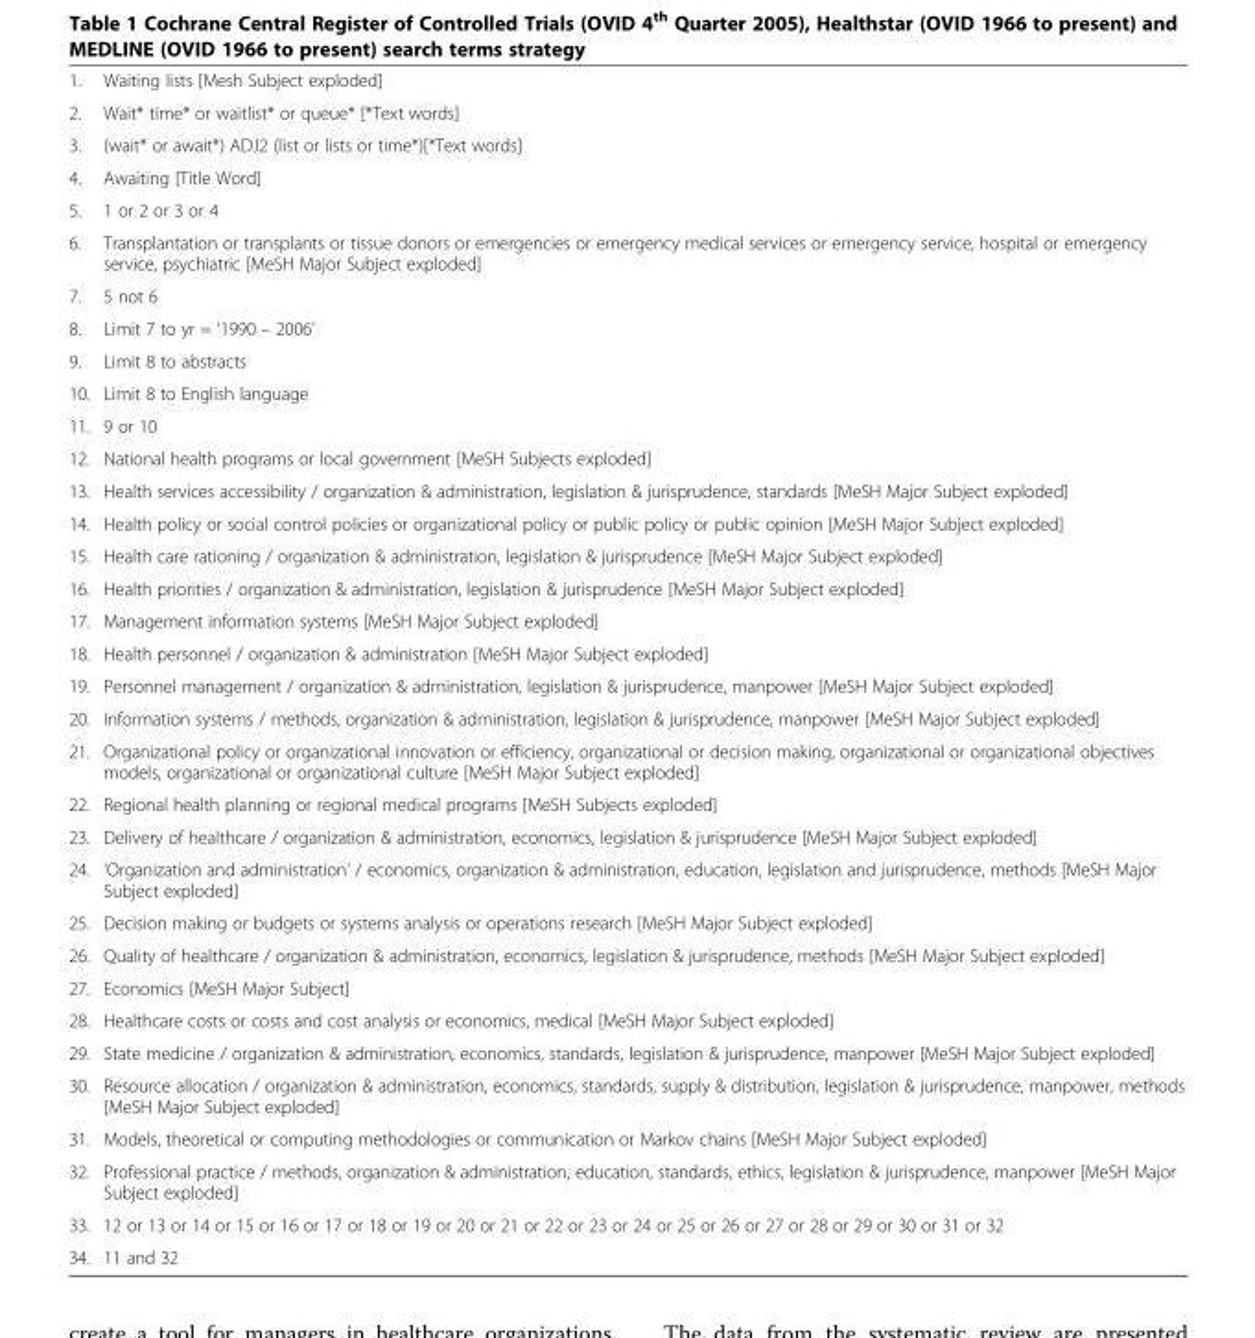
<table><tbody><tr><td>1.</td><td>Waiting lists [Mesh Subject exploded]</td></tr><tr><td>2.</td><td>Wait* time* or waitlist* or queue* [*Text words]</td></tr><tr><td>3.</td><td>(wait* or await*) ADJ2 (list or lists or time*)[*Text words]</td></tr><tr><td>4.</td><td>Awaiting [Title Word]</td></tr><tr><td>5.</td><td>1 or 2 or 3 or 4</td></tr><tr><td>6.</td><td>Transplantation or transplants or tissue donors or emergencies or emergency medical services or emergency service, hospital or emergency service, psychiatric [MeSH Major Subject exploded]</td></tr><tr><td>7.</td><td>5 not 6</td></tr><tr><td>8.</td><td>Limit 7 to yr = ‘1990 – 2006’</td></tr><tr><td>9.</td><td>Limit 8 to abstracts</td></tr><tr><td>10.</td><td>Limit 8 to English language</td></tr><tr><td>11.</td><td>9 or 10</td></tr><tr><td>12.</td><td>National health programs or local government [MeSH Subjects exploded]</td></tr><tr><td>13.</td><td>Health services accessibility / organization &amp; administration, legislation &amp; jurisprudence, standards [MeSH Major Subject exploded]</td></tr><tr><td>14.</td><td>Health policy or social control policies or organizational policy or public policy or public opinion [MeSH Major Subject exploded]</td></tr><tr><td>15.</td><td>Health care rationing / organization &amp; administration, legislation &amp; jurisprudence [MeSH Major Subject exploded]</td></tr><tr><td>16.</td><td>Health priorities / organization &amp; administration, legislation &amp; jurisprudence [MeSH Major Subject exploded]</td></tr><tr><td>17.</td><td>Management information systems [MeSH Major Subject exploded]</td></tr><tr><td>18.</td><td>Health personnel / organization &amp; administration [MeSH Major Subject exploded]</td></tr><tr><td>19.</td><td>Personnel management / organization &amp; administration, legislation &amp; jurisprudence, manpower [MeSH Major Subject exploded]</td></tr><tr><td>20.</td><td>Information systems / methods, organization &amp; administration, legislation &amp; jurisprudence, manpower [MeSH Major Subject exploded]</td></tr><tr><td>21.</td><td>Organizational policy or organizational innovation or efficiency, organizational or decision making, organizational or organizational objectives models, organizational or organizational culture [MeSH Major Subject exploded]</td></tr><tr><td>22.</td><td>Regional health planning or regional medical programs [MeSH Subjects exploded]</td></tr><tr><td>23.</td><td>Delivery of healthcare / organization &amp; administration, economics, legislation &amp; jurisprudence [MeSH Major Subject exploded]</td></tr><tr><td>24.</td><td>‘Organization and administration’ / economics, organization &amp; administration, education, legislation and jurisprudence, methods [MeSH Major Subject exploded]</td></tr><tr><td>25.</td><td>Decision making or budgets or systems analysis or operations research [MeSH Major Subject exploded]</td></tr><tr><td>26.</td><td>Quality of healthcare / organization &amp; administration, economics, legislation &amp; jurisprudence, methods [MeSH Major Subject exploded]</td></tr><tr><td>27.</td><td>Economics [MeSH Major Subject]</td></tr><tr><td>28.</td><td>Healthcare costs or costs and cost analysis or economics, medical [MeSH Major Subject exploded]</td></tr><tr><td>29.</td><td>State medicine / organization &amp; administration, economics, standards, legislation &amp; jurisprudence, manpower [MeSH Major Subject exploded]</td></tr><tr><td>30.</td><td>Resource allocation / organization &amp; administration, economics, standards, supply &amp; distribution, legislation &amp; jurisprudence, manpower, methods [MeSH Major Subject exploded]</td></tr><tr><td>31.</td><td>Models, theoretical or computing methodologies or communication or Markov chains [MeSH Major Subject exploded]</td></tr><tr><td>32.</td><td>Professional practice / methods, organization &amp; administration, education, standards, ethics, legislation &amp; jurisprudence, manpower [MeSH Major Subject exploded]</td></tr><tr><td>33.</td><td>12 or 13 or 14 or 15 or 16 or 17 or 18 or 19 or 20 or 21 or 22 or 23 or 24 or 25 or 26 or 27 or 28 or 29 or 30 or 31 or 32</td></tr><tr><td>34.</td><td>11 and 32</td></tr></tbody></table>